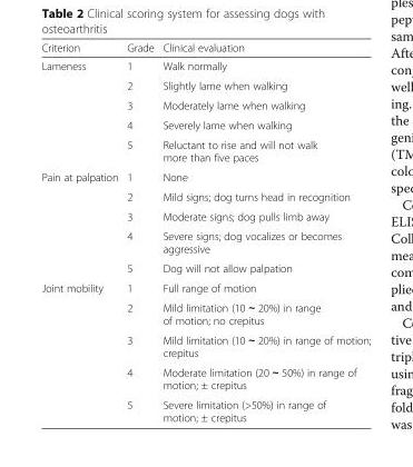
<table><thead><tr><td>Criterion</td><td>Grade</td><td>Clinical evaluation</td></tr></thead><tbody><tr><td rowspan="5">Lameness</td><td>1</td><td>Walk normally</td></tr><tr><td>2</td><td>Slightly lame when walking</td></tr><tr><td>3</td><td>Moderately lame when walking</td></tr><tr><td>4</td><td>Severely lame when walking</td></tr><tr><td>5</td><td>Reluctant to rise and will not walk more than five paces</td></tr><tr><td rowspan="5">Pain at palpation</td><td>1</td><td>None</td></tr><tr><td>2</td><td>Mild signs; dog turns head in recognition</td></tr><tr><td>3</td><td>Moderate signs; dog pulls limb away</td></tr><tr><td>4</td><td>Severe signs; dog vocalizes or becomes aggressive</td></tr><tr><td>5</td><td>Dog will not allow palpation</td></tr><tr><td rowspan="5">Joint mobility</td><td>1</td><td>Full range of motion</td></tr><tr><td>2</td><td>Mild limitation (10 ∼ 20%) in range of motion; no crepitus</td></tr><tr><td>3</td><td>Mild limitation (10 ∼ 20%) in range of motion; crepitus</td></tr><tr><td>4</td><td>Moderate limitation (20 ∼ 50%) in range of motion; ± crepitus</td></tr><tr><td>5</td><td>Severe limitation (&gt;50%) in range of motion; ± crepitus</td></tr></tbody></table>